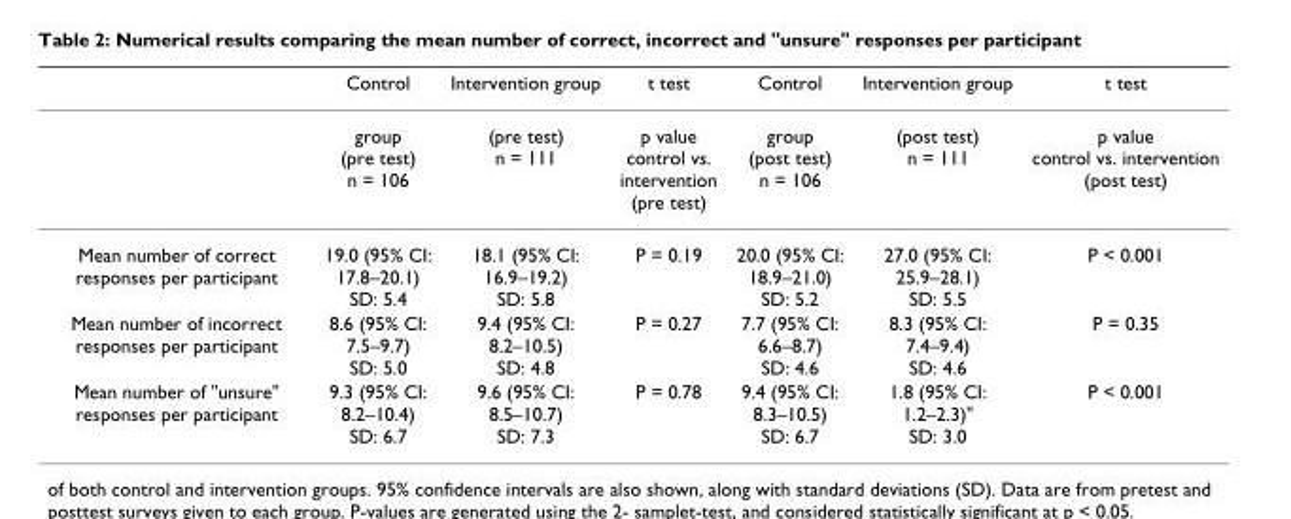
<table><thead><tr><td></td><td>Control</td><td>Intervention group</td><td>t test</td><td>Control</td><td>Intervention group</td><td>t test</td></tr></thead><tbody><tr><td></td><td>group (pre test) n = 106</td><td>(pre test) n = 111</td><td>p value control vs. intervention (pre test)</td><td>group (post test) n = 106</td><td>(post test) n = 111</td><td>p value control vs. intervention (post test)</td></tr><tr><td>Mean number of correct responses per participant</td><td>19.0 (95% CI: 17.8–20.1) SD: 5.4</td><td>18.1 (95% CI: 16.9–19.2) SD: 5.8</td><td>P = 0.19</td><td>20.0 (95% CI: 18.9–21.0) SD: 5.2</td><td>27.0 (95% CI: 25.9–28.1) SD: 5.5</td><td>P &lt; 0.001</td></tr><tr><td>Mean number of incorrect responses per participant</td><td>8.6 (95% CI: 7.5–9.7) SD: 5.0</td><td>9.4 (95% CI: 8.2–10.5) SD: 4.8</td><td>P = 0.27</td><td>7.7 (95% CI: 6.6–8.7) SD: 4.6</td><td>8.3 (95% CI: 7.4–9.4) SD: 4.6</td><td>P = 0.35</td></tr><tr><td>Mean number of &quot;unsure&quot; responses per participant</td><td>9.3 (95% CI: 8.2–10.4) SD: 6.7</td><td>9.6 (95% CI: 8.5–10.7) SD: 7.3</td><td>P = 0.78</td><td>9.4 (95% CI: 8.3–10.5) SD: 6.7</td><td>1.8 (95% CI: 1.2–2.3)&quot; SD: 3.0</td><td>P &lt; 0.001</td></tr></tbody></table>